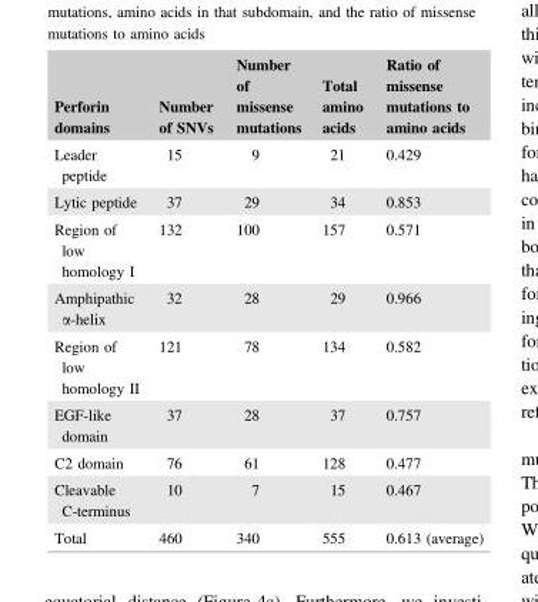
<table><thead><tr><td>Perforin domains</td><td>Number of SNVs</td><td>Number of missense mutations</td><td>Total amino acids</td><td>Ratio of missense mutations to amino acids</td></tr></thead><tbody><tr><td>Leader peptide</td><td>15</td><td>9</td><td>21</td><td>0.429</td></tr><tr><td>Lytic peptide</td><td>37</td><td>29</td><td>34</td><td>0.853</td></tr><tr><td>Region of low homology I</td><td>132</td><td>100</td><td>157</td><td>0.571</td></tr><tr><td>Amphipathic α-helix</td><td>32</td><td>28</td><td>29</td><td>0.966</td></tr><tr><td>Region of low homology II</td><td>121</td><td>78</td><td>134</td><td>0.582</td></tr><tr><td>EGF-like domain</td><td>37</td><td>28</td><td>37</td><td>0.757</td></tr><tr><td>C2 domain</td><td>76</td><td>61</td><td>128</td><td>0.477</td></tr><tr><td>Cleavable C-terminus</td><td>10</td><td>7</td><td>15</td><td>0.467</td></tr><tr><td>Total</td><td>460</td><td>340</td><td>555</td><td>0.613 (average)</td></tr></tbody></table>